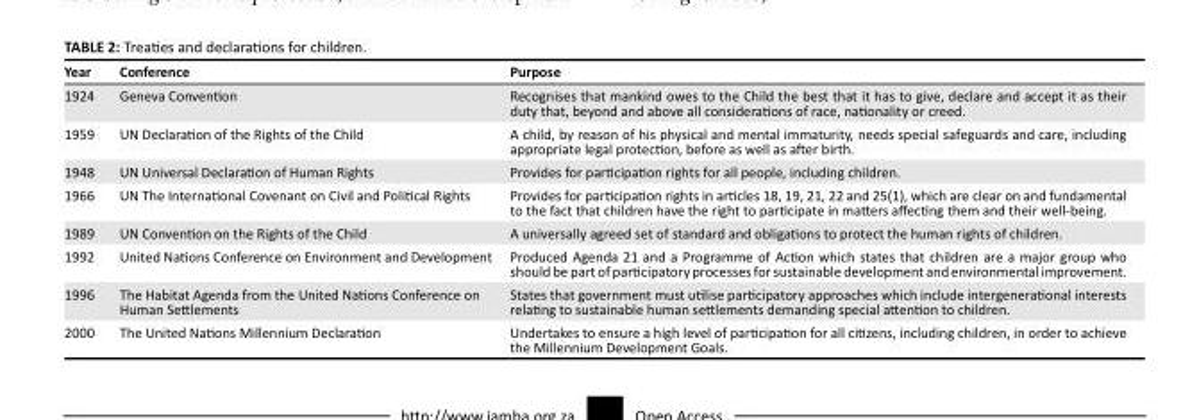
<table><thead><tr><td>Year</td><td>Conference</td><td>Purpose</td></tr></thead><tbody><tr><td>1924</td><td>Geneva Convention</td><td>Recognises that mankind owes to the Child the best that it has to give, declare and accept it as their duty that, beyond and above all considerations of race, nationality or creed.</td></tr><tr><td>1959</td><td>UN Declaration of the Rights of the Child</td><td>A child, by reason of his physical and mental immaturity, needs special safeguards and care, including appropriate legal protection, before as well as after birth.</td></tr><tr><td>1948</td><td>UN Universal Declaration of Human Rights</td><td>Provides for participation rights for all people, including children.</td></tr><tr><td>1966</td><td>UN The International Covenant on Civil and Political Rights</td><td>Provides for participation rights in articles 18, 19, 21, 22 and 25(1), which are clear on and fundamental to the fact that children have the right to participate in matters affecting them and their well-being.</td></tr><tr><td>1989</td><td>UN Convention on the Rights of the Child</td><td>A universally agreed set of standard and obligations to protect the human rights of children.</td></tr><tr><td>1992</td><td>United Nations Conference on Environment and Development</td><td>Produced Agenda 21 and a Programme of Action which states that children are a major group who should be part of participatory processes for sustainable development and environmental improvement.</td></tr><tr><td>1996</td><td>The Habitat Agenda from the United Nations Conference on Human Settlements</td><td>States that government must utilise participatory approaches which include intergenerational interests relating to sustainable human settlements demanding special attention to children.</td></tr><tr><td>2000</td><td>The United Nations Millennium Declaration</td><td>Undertakes to ensure a high level of participation for all citizens, including children, in order to achieve the Millennium Development Goals.</td></tr></tbody></table>